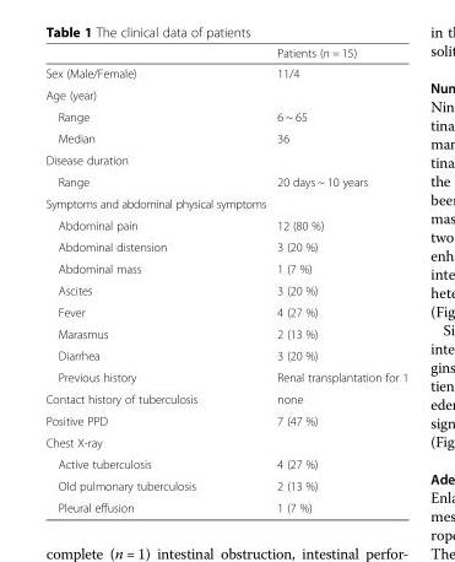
<table><thead><tr><td></td><td>Patients (n = 15)</td></tr></thead><tbody><tr><td>Sex (Male/Female)</td><td>11/4</td></tr><tr><td colspan="2">Age (year)</td></tr><tr><td>Range</td><td>6 ~ 65</td></tr><tr><td>Median</td><td>36</td></tr><tr><td colspan="2">Disease duration</td></tr><tr><td>Range</td><td>20 days ~ 10 years</td></tr><tr><td colspan="2">Symptoms and abdominal physical symptoms</td></tr><tr><td>Abdominal pain</td><td>12 (80 %)</td></tr><tr><td>Abdominal distension</td><td>3 (20 %)</td></tr><tr><td>Abdominal mass</td><td>1 (7 %)</td></tr><tr><td>Ascites</td><td>3 (20 %)</td></tr><tr><td>Fever</td><td>4 (27 %)</td></tr><tr><td>Marasmus</td><td>2 (13 %)</td></tr><tr><td>Diarrhea</td><td>3 (20 %)</td></tr><tr><td>Previous history</td><td>Renal transplantation for 1</td></tr><tr><td>Contact history of tuberculosis</td><td>none</td></tr><tr><td>Positive PPD</td><td>7 (47 %)</td></tr><tr><td colspan="2">Chest X-ray</td></tr><tr><td>Active tuberculosis</td><td>4 (27 %)</td></tr><tr><td>Old pulmonary tuberculosis</td><td>2 (13 %)</td></tr><tr><td>Pleural effusion</td><td>1 (7 %)</td></tr></tbody></table>